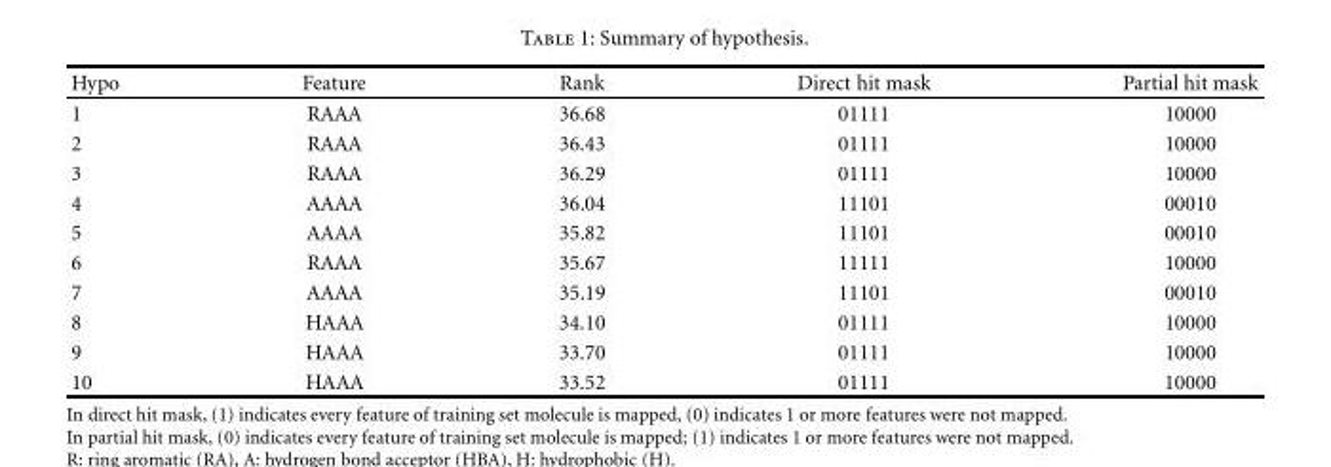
<table><thead><tr><td>Hypo</td><td>Feature</td><td>Rank</td><td>Direct hit mask</td><td>Partial hit mask</td></tr></thead><tbody><tr><td>1</td><td>RAAA</td><td>36.68</td><td>01111</td><td>10000</td></tr><tr><td>2</td><td>RAAA</td><td>36.43</td><td>01111</td><td>10000</td></tr><tr><td>3</td><td>RAAA</td><td>36.29</td><td>01111</td><td>10000</td></tr><tr><td>4</td><td>AAAA</td><td>36.04</td><td>11101</td><td>00010</td></tr><tr><td>5</td><td>AAAA</td><td>35.82</td><td>11101</td><td>00010</td></tr><tr><td>6</td><td>RAAA</td><td>35.67</td><td>11111</td><td>10000</td></tr><tr><td>7</td><td>AAAA</td><td>35.19</td><td>11101</td><td>00010</td></tr><tr><td>8</td><td>HAAA</td><td>34.10</td><td>01111</td><td>10000</td></tr><tr><td>9</td><td>HAAA</td><td>33.70</td><td>01111</td><td>10000</td></tr><tr><td>10</td><td>HAAA</td><td>33.52</td><td>01111</td><td>10000</td></tr></tbody></table>